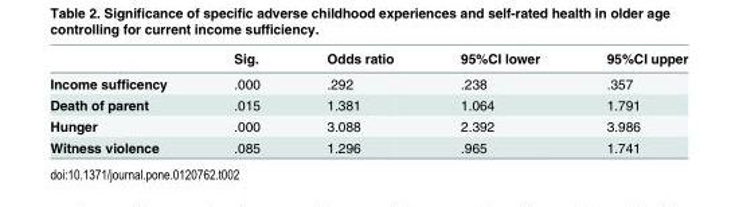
<table><thead><tr><td></td><td>Sig.</td><td>Odds ratio</td><td>95%CI lower</td><td>95%CI upper</td></tr></thead><tbody><tr><td>Income sufficency</td><td>.000</td><td>.292</td><td>.238</td><td>.357</td></tr><tr><td>Death of parent</td><td>.015</td><td>1.381</td><td>1.064</td><td>1.791</td></tr><tr><td>Hunger</td><td>.000</td><td>3.088</td><td>2.392</td><td>3.986</td></tr><tr><td>Witness violence</td><td>.085</td><td>1.296</td><td>.965</td><td>1.741</td></tr></tbody></table>